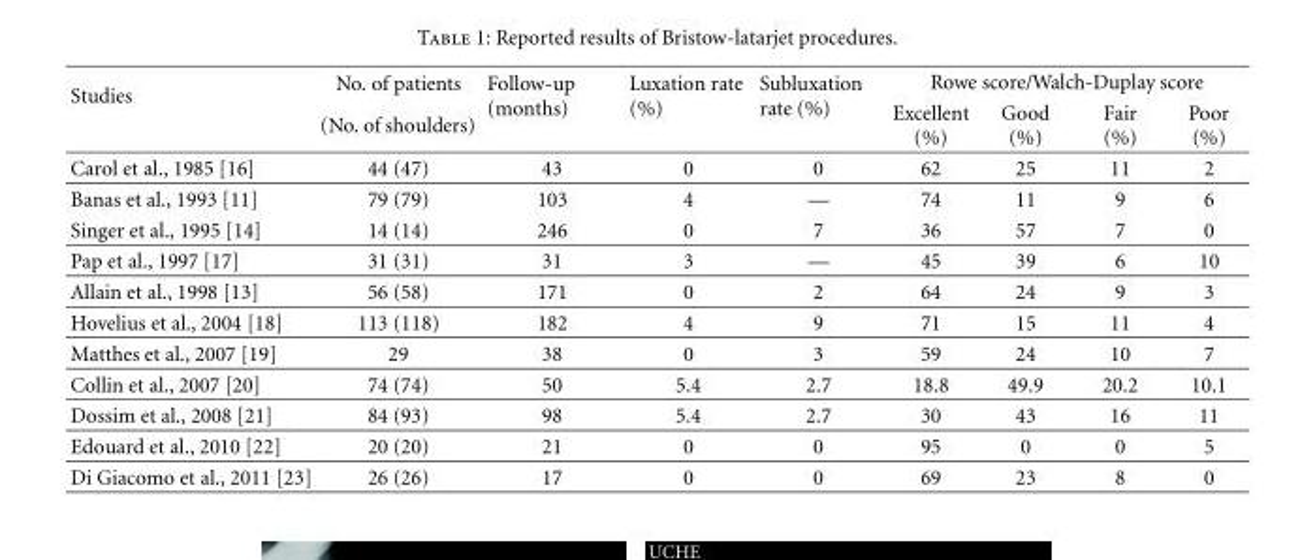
<table><thead><tr><td rowspan="2">Studies</td><td rowspan="2">No. of patients (No. of shoulders)</td><td rowspan="2">Follow-up (months)</td><td rowspan="2">Luxation rate (%)</td><td rowspan="2">Subluxation rate (%)</td><td colspan="4">Rowe score/Walch-Duplay score</td></tr><tr><td>Excellent (%)</td><td>Good (%)</td><td>Fair (%)</td><td>Poor (%)</td></tr></thead><tbody><tr><td>Carol et al., 1985 [16]</td><td>44 (47)</td><td>43</td><td>0</td><td>0</td><td>62</td><td>25</td><td>11</td><td>2</td></tr><tr><td>Banas et al., 1993 [11]</td><td>79 (79)</td><td>103</td><td>4</td><td>—</td><td>74</td><td>11</td><td>9</td><td>6</td></tr><tr><td>Singer et al., 1995 [14]</td><td>14 (14)</td><td>246</td><td>0</td><td>7</td><td>36</td><td>57</td><td>7</td><td>0</td></tr><tr><td>Pap et al., 1997 [17]</td><td>31 (31)</td><td>31</td><td>3</td><td>—</td><td>45</td><td>39</td><td>6</td><td>10</td></tr><tr><td>Allain et al., 1998 [13]</td><td>56 (58)</td><td>171</td><td>0</td><td>2</td><td>64</td><td>24</td><td>9</td><td>3</td></tr><tr><td>Hovelius et al., 2004 [18]</td><td>113 (118)</td><td>182</td><td>4</td><td>9</td><td>71</td><td>15</td><td>11</td><td>4</td></tr><tr><td>Matthes et al., 2007 [19]</td><td>29</td><td>38</td><td>0</td><td>3</td><td>59</td><td>24</td><td>10</td><td>7</td></tr><tr><td>Collin et al., 2007 [20]</td><td>74 (74)</td><td>50</td><td>5.4</td><td>2.7</td><td>18.8</td><td>49.9</td><td>20.2</td><td>10.1</td></tr><tr><td>Dossim et al., 2008 [21]</td><td>84 (93)</td><td>98</td><td>5.4</td><td>2.7</td><td>30</td><td>43</td><td>16</td><td>11</td></tr><tr><td>Edouard et al., 2010 [22]</td><td>20 (20)</td><td>21</td><td>0</td><td>0</td><td>95</td><td>0</td><td>0</td><td>5</td></tr><tr><td>Di Giacomo et al., 2011 [23]</td><td>26 (26)</td><td>17</td><td>0</td><td>0</td><td>69</td><td>23</td><td>8</td><td>0</td></tr></tbody></table>